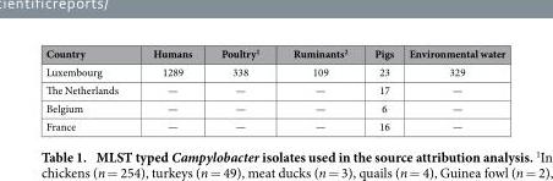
<table><thead><tr><td>Country</td><td>Humans</td><td>Poultry<sup>1</sup></td><td>Ruminants<sup>2</sup></td><td>Pigs</td><td>Environmental water</td></tr></thead><tbody><tr><td>Luxembourg</td><td>1289</td><td>338</td><td>109</td><td>23</td><td>329</td></tr><tr><td>The Netherlands</td><td>—</td><td>—</td><td>—</td><td>17</td><td>—</td></tr><tr><td>Belgium</td><td>—</td><td>—</td><td>—</td><td>6</td><td>—</td></tr><tr><td>France</td><td>—</td><td>—</td><td>—</td><td>16</td><td>—</td></tr></tbody></table>